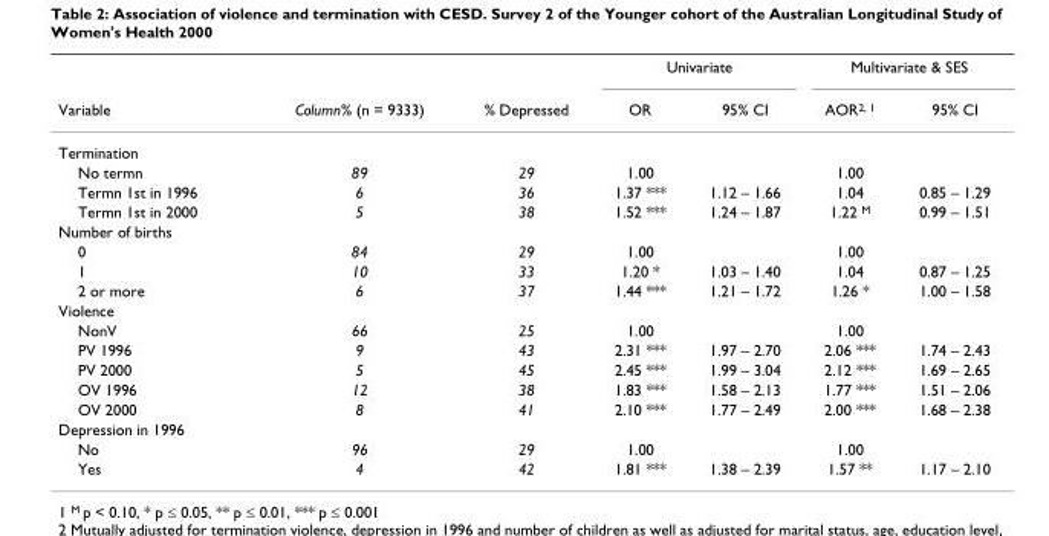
<table><thead><tr><td rowspan="2">Variable</td><td rowspan="2">Column% (n = 9333)</td><td rowspan="2">% Depressed</td><td colspan="2">Univariate</td><td colspan="2">Multivariate &amp; SES</td></tr><tr><td>OR</td><td>95% CI</td><td>AOR<sup>2, 1</sup></td><td>95% CI</td></tr></thead><tbody><tr><td colspan="7">Termination</td></tr><tr><td>No termn</td><td>89</td><td>29</td><td>1.00</td><td></td><td>1.00</td><td></td></tr><tr><td>Termn 1st in 1996</td><td>6</td><td>36</td><td>1.37 ***</td><td>1.12 – 1.66</td><td>1.04</td><td>0.85 – 1.29</td></tr><tr><td>Termn 1st in 2000</td><td>5</td><td>38</td><td>1.52 ***</td><td>1.24 – 1.87</td><td>1.22 <sup>M</sup></td><td>0.99 – 1.51</td></tr><tr><td colspan="7">Number of births</td></tr><tr><td>0</td><td>84</td><td>29</td><td>1.00</td><td></td><td>1.00</td><td></td></tr><tr><td>1</td><td>10</td><td>33</td><td>1.20 *</td><td>1.03 – 1.40</td><td>1.04</td><td>0.87 – 1.25</td></tr><tr><td>2 or more</td><td>6</td><td>37</td><td>1.44 ***</td><td>1.21 – 1.72</td><td>1.26 *</td><td>1.00 – 1.58</td></tr><tr><td colspan="7">Violence</td></tr><tr><td>NonV</td><td>66</td><td>25</td><td>1.00</td><td></td><td>1.00</td><td></td></tr><tr><td>PV 1996</td><td>9</td><td>43</td><td>2.31 ***</td><td>1.97 – 2.70</td><td>2.06 ***</td><td>1.74 – 2.43</td></tr><tr><td>PV 2000</td><td>5</td><td>45</td><td>2.45 ***</td><td>1.99 – 3.04</td><td>2.12 ***</td><td>1.69 – 2.65</td></tr><tr><td>OV 1996</td><td>12</td><td>38</td><td>1.83 ***</td><td>1.58 – 2.13</td><td>1.77 ***</td><td>1.51 – 2.06</td></tr><tr><td>OV 2000</td><td>8</td><td>41</td><td>2.10 ***</td><td>1.77 – 2.49</td><td>2.00 ***</td><td>1.68 – 2.38</td></tr><tr><td colspan="7">Depression in 1996</td></tr><tr><td>No</td><td>96</td><td>29</td><td>1.00</td><td></td><td>1.00</td><td></td></tr><tr><td>Yes</td><td>4</td><td>42</td><td>1.81 ***</td><td>1.38 – 2.39</td><td>1.57 **</td><td>1.17 – 2.10</td></tr></tbody></table>